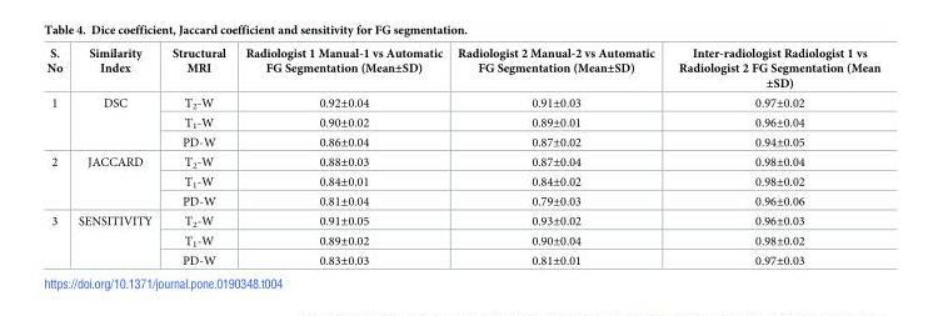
<table><thead><tr><td>S. No</td><td>Similarity Index</td><td>Structural MRI</td><td>Radiologist 1 Manual-1 vs Automatic FG Segmentation (Mean±SD)</td><td>Radiologist 2 Manual-2 vs Automatic FG Segmentation (Mean±SD)</td><td>Inter-radiologist Radiologist 1 vs Radiologist 2 FG Segmentation (Mean ±SD)</td></tr></thead><tbody><tr><td rowspan="3">1</td><td rowspan="3">DSC</td><td>T<sub>2</sub>-W</td><td>0.92±0.04</td><td>0.91±0.03</td><td>0.97±0.02</td></tr><tr><td>T<sub>1</sub>-W</td><td>0.90±0.02</td><td>0.89±0.01</td><td>0.96±0.04</td></tr><tr><td>PD-W</td><td>0.86±0.04</td><td>0.87±0.02</td><td>0.94±0.05</td></tr><tr><td rowspan="3">2</td><td rowspan="3">JACCARD</td><td>T<sub>2</sub>-W</td><td>0.88±0.03</td><td>0.87±0.04</td><td>0.98±0.04</td></tr><tr><td>T<sub>1</sub>-W</td><td>0.84±0.01</td><td>0.84±0.02</td><td>0.98±0.02</td></tr><tr><td>PD-W</td><td>0.81±0.04</td><td>0.79±0.03</td><td>0.96±0.06</td></tr><tr><td rowspan="3">3</td><td rowspan="3">SENSITIVITY</td><td>T<sub>2</sub>-W</td><td>0.91±0.05</td><td>0.93±0.02</td><td>0.96±0.03</td></tr><tr><td>T<sub>1</sub>-W</td><td>0.89±0.02</td><td>0.90±0.04</td><td>0.98±0.02</td></tr><tr><td>PD-W</td><td>0.83±0.03</td><td>0.81±0.01</td><td>0.97±0.03</td></tr></tbody></table>